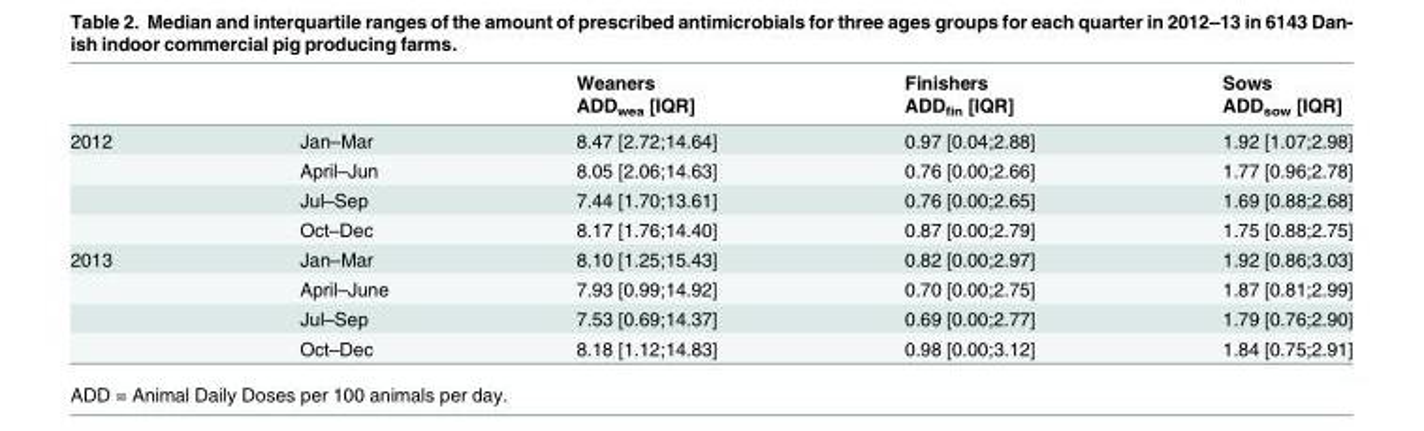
<table><thead><tr><td rowspan="2"></td><td rowspan="2"></td><td rowspan="2">Weaners ADD<sub>wea</sub> [IQR]</td><td rowspan="2">Finishers ADD<sub>fin</sub> [IQR]</td><td rowspan="2">Sows ADD<sub>sow</sub> [IQR]</td></tr><tr></tr></thead><tbody><tr><td rowspan="4">2012</td><td>Jan–Mar</td><td>8.47 [2.72;14.64]</td><td>0.97 [0.04;2.88]</td><td>1.92 [1.07;2.98]</td></tr><tr><td>April–Jun</td><td>8.05 [2.06;14.63]</td><td>0.76 [0.00;2.66]</td><td>1.77 [0.96;2.78]</td></tr><tr><td>Jul–Sep</td><td>7.44 [1.70;13.61]</td><td>0.76 [0.00;2.65]</td><td>1.69 [0.88;2.68]</td></tr><tr><td>Oct–Dec</td><td>8.17 [1.76;14.40]</td><td>0.87 [0.00;2.79]</td><td>1.75 [0.88;2.75]</td></tr><tr><td rowspan="4">2013</td><td>Jan–Mar</td><td>8.10 [1.25;15.43]</td><td>0.82 [0.00;2.97]</td><td>1.92 [0.86;3.03]</td></tr><tr><td>April–June</td><td>7.93 [0.99;14.92]</td><td>0.70 [0.00;2.75]</td><td>1.87 [0.81;2.99]</td></tr><tr><td>Jul–Sep</td><td>7.53 [0.69;14.37]</td><td>0.69 [0.00;2.77]</td><td>1.79 [0.76;2.90]</td></tr><tr><td>Oct–Dec</td><td>8.18 [1.12;14.83]</td><td>0.98 [0.00;3.12]</td><td>1.84 [0.75;2.91]</td></tr></tbody></table>